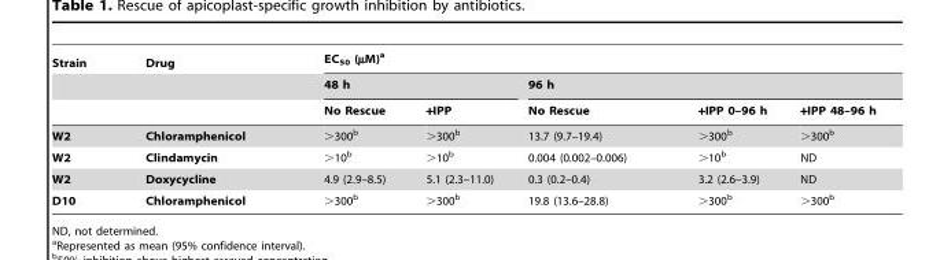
<table><thead><tr><td rowspan="3">Strain</td><td rowspan="3">Drug</td><td colspan="5">EC<sub>50</sub> (µM)<sup>a</sup></td></tr><tr><td colspan="2">48 h</td><td colspan="3">96 h</td></tr><tr><td>No Rescue</td><td>+IPP</td><td>No Rescue</td><td>+IPP 0–96 h</td><td>+IPP 48–96 h</td></tr></thead><tbody><tr><td>W2</td><td>Chloramphenicol</td><td>&gt;300<sup>b</sup></td><td>&gt;300<sup>b</sup></td><td>13.7 (9.7–19.4)</td><td>&gt;300<sup>b</sup></td><td>&gt;300<sup>b</sup></td></tr><tr><td>W2</td><td>Clindamycin</td><td>&gt;10<sup>b</sup></td><td>&gt;10<sup>b</sup></td><td>0.004 (0.002–0.006)</td><td>&gt;10<sup>b</sup></td><td>ND</td></tr><tr><td>W2</td><td>Doxycycline</td><td>4.9 (2.9–8.5)</td><td>5.1 (2.3–11.0)</td><td>0.3 (0.2–0.4)</td><td>3.2 (2.6–3.9)</td><td>ND</td></tr><tr><td>D10</td><td>Chloramphenicol</td><td>&gt;300<sup>b</sup></td><td>&gt;300<sup>b</sup></td><td>19.8 (13.6–28.8)</td><td>&gt;300<sup>b</sup></td><td>&gt;300<sup>b</sup></td></tr></tbody></table>